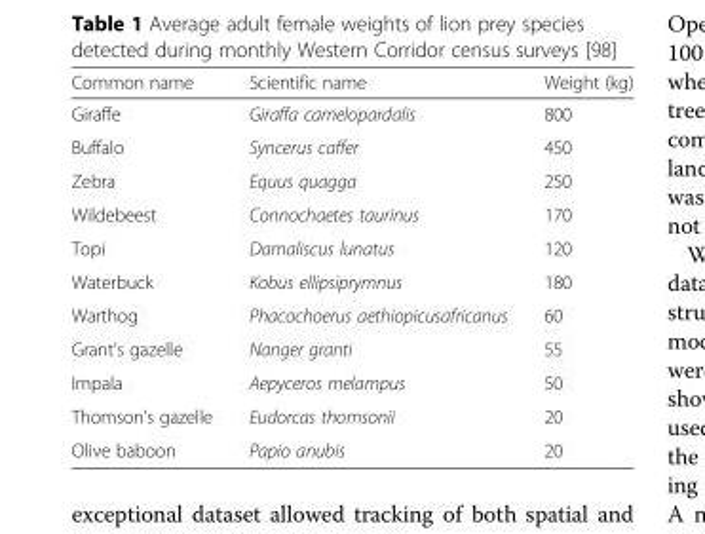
<table><thead><tr><td>Common name</td><td>Scientific name</td><td>Weight (kg)</td></tr></thead><tbody><tr><td>Giraffe</td><td>Giraffa camelopardalis</td><td>800</td></tr><tr><td>Buffalo</td><td>Syncerus caffer</td><td>450</td></tr><tr><td>Zebra</td><td>Equus quagga</td><td>250</td></tr><tr><td>Wildebeest</td><td>Connochaetes taurinus</td><td>170</td></tr><tr><td>Topi</td><td>Damaliscus lunatus</td><td>120</td></tr><tr><td>Waterbuck</td><td>Kobus ellipsiprymnus</td><td>180</td></tr><tr><td>Warthog</td><td>Phacochoerus aethiopicusafricanus</td><td>60</td></tr><tr><td>Grant’s gazelle</td><td>Nanger granti</td><td>55</td></tr><tr><td>Impala</td><td>Aepyceros melampus</td><td>50</td></tr><tr><td>Thomson’s gazelle</td><td>Eudorcas thomsonii</td><td>20</td></tr><tr><td>Olive baboon</td><td>Papio anubis</td><td>20</td></tr></tbody></table>